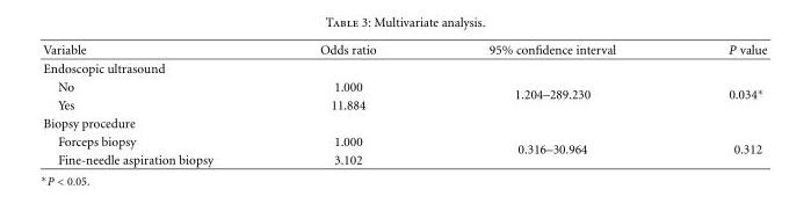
<table><thead><tr><td>Variable</td><td>Odds ratio</td><td>95% confidence interval</td><td>P value</td></tr></thead><tbody><tr><td colspan="4">Endoscopic ultrasound</td></tr><tr><td>No</td><td>1.000</td><td rowspan="2">1.204–289.230</td><td rowspan="2">0.034∗</td></tr><tr><td>Yes</td><td>11.884</td></tr><tr><td colspan="4">Biopsy procedure</td></tr><tr><td>Forceps biopsy</td><td>1.000</td><td rowspan="2">0.316–30.964</td><td rowspan="2">0.312</td></tr><tr><td>Fine-needle aspiration biopsy</td><td>3.102</td></tr></tbody></table>